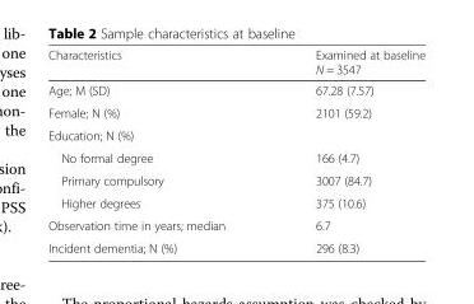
<table><thead><tr><td>Characteristics</td><td>Examined at baseline N = 3547</td></tr></thead><tbody><tr><td>Age; M (SD)</td><td>67.28 (7.57)</td></tr><tr><td>Female; N (%)</td><td>2101 (59.2)</td></tr><tr><td colspan="2">Education; N (%)</td></tr><tr><td>No formal degree</td><td>166 (4.7)</td></tr><tr><td>Primary compulsory</td><td>3007 (84.7)</td></tr><tr><td>Higher degrees</td><td>375 (10.6)</td></tr><tr><td>Observation time in years; median</td><td>6.7</td></tr><tr><td>Incident dementia; N (%)</td><td>296 (8.3)</td></tr></tbody></table>